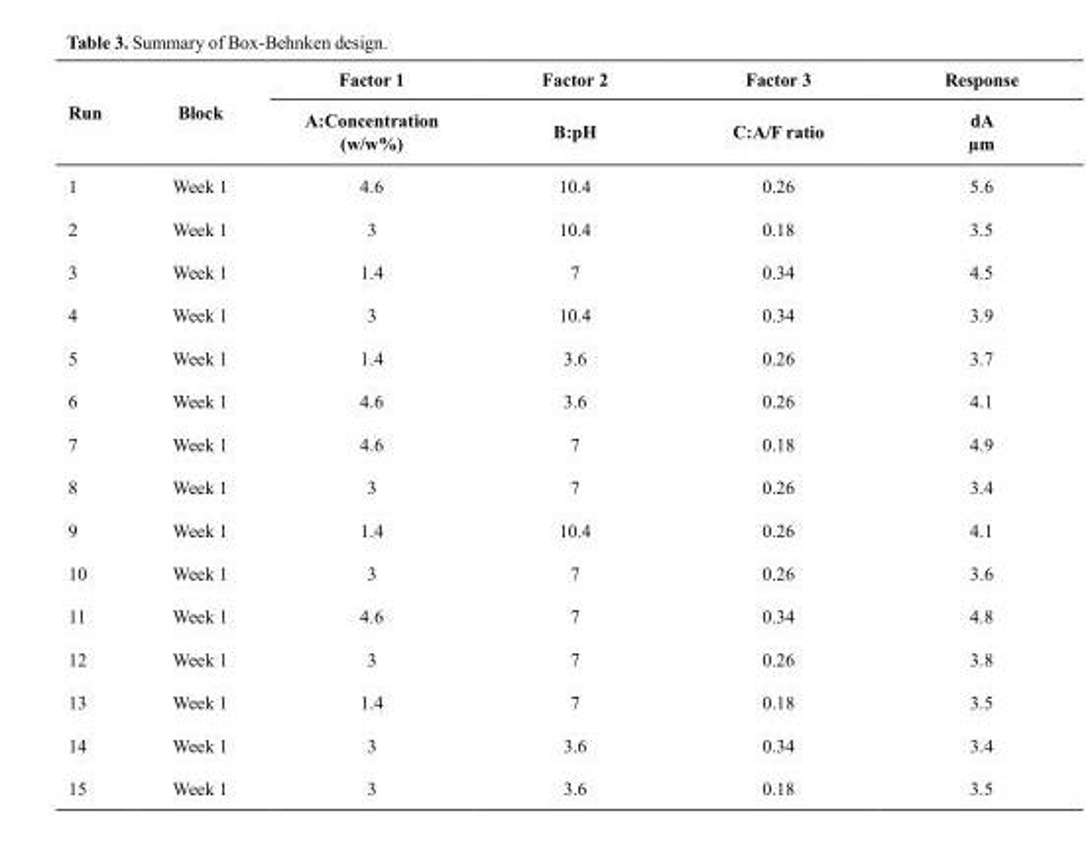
<table><thead><tr><td rowspan="2">Run</td><td rowspan="2">Block</td><td rowspan="2">Factor 1 A:Concentration (w/w%)</td><td rowspan="2">Factor 2 B:pH</td><td rowspan="2">Factor 3 C:A/F ratio</td><td rowspan="2">Response dA µm</td></tr><tr></tr></thead><tbody><tr><td>1</td><td>Week 1</td><td>4.6</td><td>10.4</td><td>0.26</td><td>5.6</td></tr><tr><td>2</td><td>Week 1</td><td>3</td><td>10.4</td><td>0.18</td><td>3.5</td></tr><tr><td>3</td><td>Week 1</td><td>1.4</td><td>7</td><td>0.34</td><td>4.5</td></tr><tr><td>4</td><td>Week 1</td><td>3</td><td>10.4</td><td>0.34</td><td>3.9</td></tr><tr><td>5</td><td>Week 1</td><td>1.4</td><td>3.6</td><td>0.26</td><td>3.7</td></tr><tr><td>6</td><td>Week 1</td><td>4.6</td><td>3.6</td><td>0.26</td><td>4.1</td></tr><tr><td>7</td><td>Week 1</td><td>4.6</td><td>7</td><td>0.18</td><td>4.9</td></tr><tr><td>8</td><td>Week 1</td><td>3</td><td>7</td><td>0.26</td><td>3.4</td></tr><tr><td>9</td><td>Week 1</td><td>1.4</td><td>10.4</td><td>0.26</td><td>4.1</td></tr><tr><td>10</td><td>Week 1</td><td>3</td><td>7</td><td>0.26</td><td>3.6</td></tr><tr><td>11</td><td>Week 1</td><td>4.6</td><td>7</td><td>0.34</td><td>4.8</td></tr><tr><td>12</td><td>Week 1</td><td>3</td><td>7</td><td>0.26</td><td>3.8</td></tr><tr><td>13</td><td>Week 1</td><td>1.4</td><td>7</td><td>0.18</td><td>3.5</td></tr><tr><td>14</td><td>Week 1</td><td>3</td><td>3.6</td><td>0.34</td><td>3.4</td></tr><tr><td>15</td><td>Week 1</td><td>3</td><td>3.6</td><td>0.18</td><td>3.5</td></tr></tbody></table>